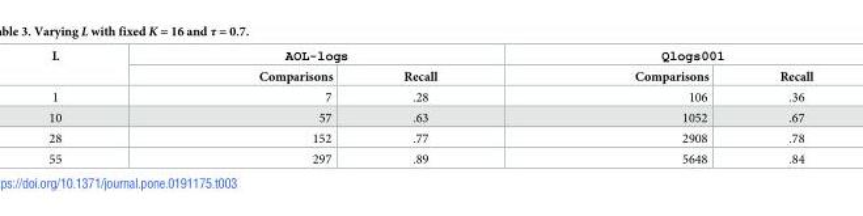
<table><thead><tr><td rowspan="2">L</td><td colspan="2">AOL-logs</td><td colspan="2">Qlogs001</td></tr><tr><td>Comparisons</td><td>Recall</td><td>Comparisons</td><td>Recall</td></tr></thead><tbody><tr><td>1</td><td>7</td><td>.28</td><td>106</td><td>.36</td></tr><tr><td>10</td><td>57</td><td>.63</td><td>1052</td><td>.67</td></tr><tr><td>28</td><td>152</td><td>.77</td><td>2908</td><td>.78</td></tr><tr><td>55</td><td>297</td><td>.89</td><td>5648</td><td>.84</td></tr></tbody></table>